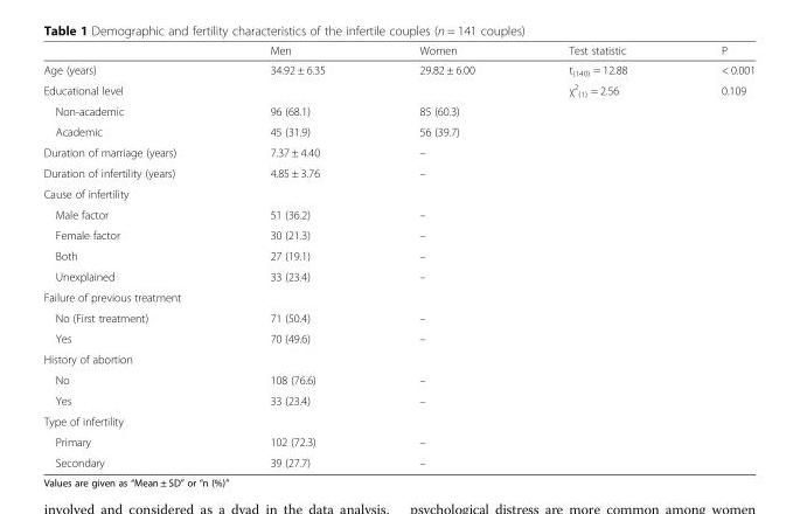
<table><thead><tr><td></td><td>Men</td><td>Women</td><td>Test statistic</td><td>P</td></tr></thead><tbody><tr><td>Age (years)</td><td>34.92 ± 6.35</td><td>29.82 ± 6.00</td><td>t<sub>(140)</sub> = 12.88</td><td>&lt; 0.001</td></tr><tr><td colspan="3">Educational level</td><td>χ<sup>2</sup> <sub>(1)</sub> = 2.56</td><td>0.109</td></tr><tr><td>Non-academic</td><td>96 (68.1)</td><td>85 (60.3)</td><td></td><td></td></tr><tr><td>Academic</td><td>45 (31.9)</td><td>56 (39.7)</td><td></td><td></td></tr><tr><td>Duration of marriage (years)</td><td>7.37 ± 4.40</td><td>–</td><td></td><td></td></tr><tr><td>Duration of infertility (years)</td><td>4.85 ± 3.76</td><td>–</td><td></td><td></td></tr><tr><td colspan="5">Cause of infertility</td></tr><tr><td>Male factor</td><td>51 (36.2)</td><td>–</td><td></td><td></td></tr><tr><td>Female factor</td><td>30 (21.3)</td><td>–</td><td></td><td></td></tr><tr><td>Both</td><td>27 (19.1)</td><td>–</td><td></td><td></td></tr><tr><td>Unexplained</td><td>33 (23.4)</td><td>–</td><td></td><td></td></tr><tr><td colspan="5">Failure of previous treatment</td></tr><tr><td>No (First treatment)</td><td>71 (50.4)</td><td>–</td><td></td><td></td></tr><tr><td>Yes</td><td>70 (49.6)</td><td>–</td><td></td><td></td></tr><tr><td colspan="5">History of abortion</td></tr><tr><td>No</td><td>108 (76.6)</td><td>–</td><td></td><td></td></tr><tr><td>Yes</td><td>33 (23.4)</td><td>–</td><td></td><td></td></tr><tr><td colspan="5">Type of infertility</td></tr><tr><td>Primary</td><td>102 (72.3)</td><td>–</td><td></td><td></td></tr><tr><td>Secondary</td><td>39 (27.7)</td><td>–</td><td></td><td></td></tr></tbody></table>